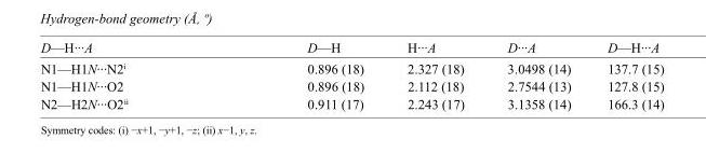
<table><tbody><tr><td>D—H···A</td><td>D—H</td><td>H···A</td><td>D···A</td><td>D—H···A</td></tr><tr><td>N1—H1N···N2<sup>i</sup></td><td>0.896 (18)</td><td>2.327 (18)</td><td>3.0498 (14)</td><td>137.7 (15)</td></tr><tr><td>N1—H1N···O2</td><td>0.896 (18)</td><td>2.112 (18)</td><td>2.7544 (13)</td><td>127.8 (15)</td></tr><tr><td>N2—H2N···O2<sup>ii</sup></td><td>0.911 (17)</td><td>2.243 (17)</td><td>3.1358 (14)</td><td>166.3 (14)</td></tr></tbody></table>